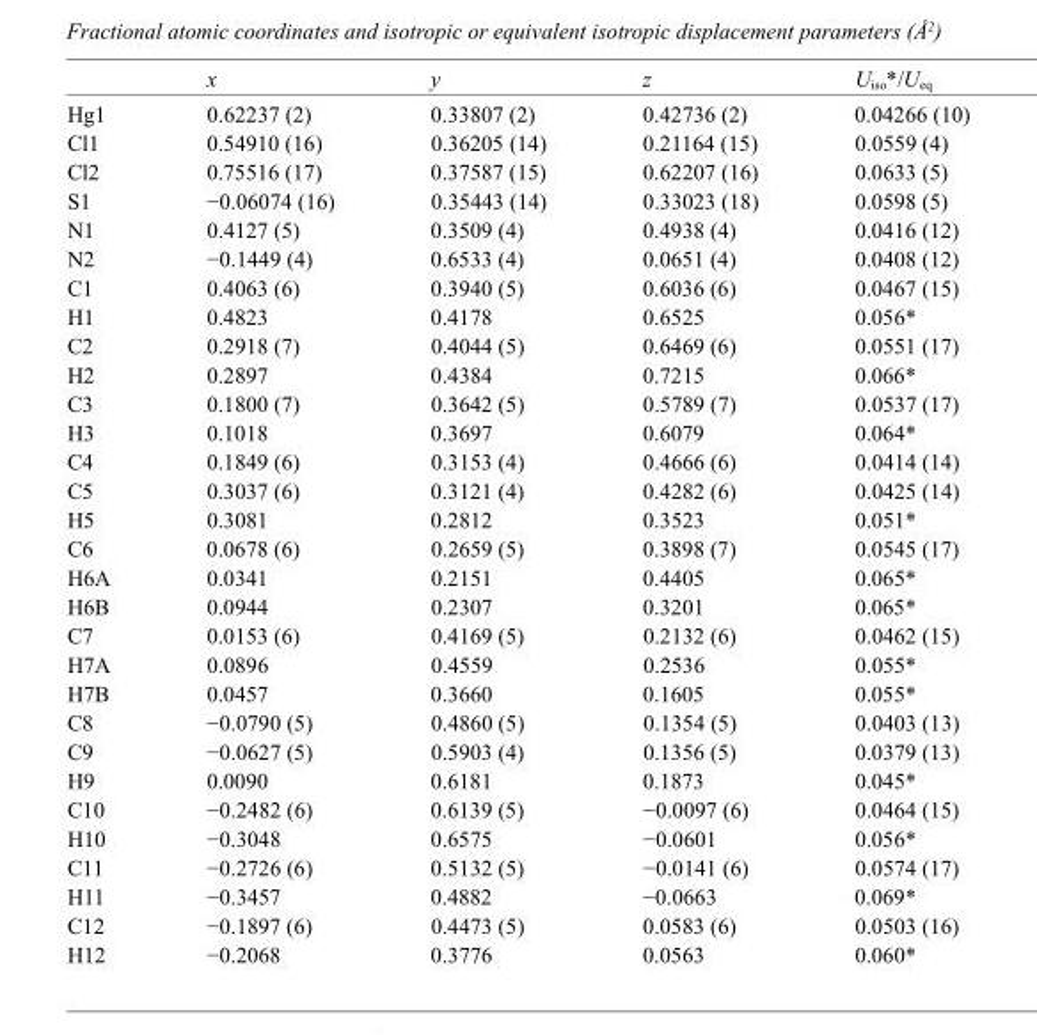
<table><thead><tr><td></td><td>x</td><td>y</td><td>z</td><td>U<sub>iso</sub>*/U<sub>eq</sub></td></tr></thead><tbody><tr><td>Hg1</td><td>0.62237 (2)</td><td>0.33807 (2)</td><td>0.42736 (2)</td><td>0.04266 (10)</td></tr><tr><td>Cl1</td><td>0.54910 (16)</td><td>0.36205 (14)</td><td>0.21164 (15)</td><td>0.0559 (4)</td></tr><tr><td>Cl2</td><td>0.75516 (17)</td><td>0.37587 (15)</td><td>0.62207 (16)</td><td>0.0633 (5)</td></tr><tr><td>S1</td><td>−0.06074 (16)</td><td>0.35443 (14)</td><td>0.33023 (18)</td><td>0.0598 (5)</td></tr><tr><td>N1</td><td>0.4127 (5)</td><td>0.3509 (4)</td><td>0.4938 (4)</td><td>0.0416 (12)</td></tr><tr><td>N2</td><td>−0.1449 (4)</td><td>0.6533 (4)</td><td>0.0651 (4)</td><td>0.0408 (12)</td></tr><tr><td>C1</td><td>0.4063 (6)</td><td>0.3940 (5)</td><td>0.6036 (6)</td><td>0.0467 (15)</td></tr><tr><td>H1</td><td>0.4823</td><td>0.4178</td><td>0.6525</td><td>0.056*</td></tr><tr><td>C2</td><td>0.2918 (7)</td><td>0.4044 (5)</td><td>0.6469 (6)</td><td>0.0551 (17)</td></tr><tr><td>H2</td><td>0.2897</td><td>0.4384</td><td>0.7215</td><td>0.066*</td></tr><tr><td>C3</td><td>0.1800 (7)</td><td>0.3642 (5)</td><td>0.5789 (7)</td><td>0.0537 (17)</td></tr><tr><td>H3</td><td>0.1018</td><td>0.3697</td><td>0.6079</td><td>0.064*</td></tr><tr><td>C4</td><td>0.1849 (6)</td><td>0.3153 (4)</td><td>0.4666 (6)</td><td>0.0414 (14)</td></tr><tr><td>C5</td><td>0.3037 (6)</td><td>0.3121 (4)</td><td>0.4282 (6)</td><td>0.0425 (14)</td></tr><tr><td>H5</td><td>0.3081</td><td>0.2812</td><td>0.3523</td><td>0.051*</td></tr><tr><td>C6</td><td>0.0678 (6)</td><td>0.2659 (5)</td><td>0.3898 (7)</td><td>0.0545 (17)</td></tr><tr><td>H6A</td><td>0.0341</td><td>0.2151</td><td>0.4405</td><td>0.065*</td></tr><tr><td>H6B</td><td>0.0944</td><td>0.2307</td><td>0.3201</td><td>0.065*</td></tr><tr><td>C7</td><td>0.0153 (6)</td><td>0.4169 (5)</td><td>0.2132 (6)</td><td>0.0462 (15)</td></tr><tr><td>H7A</td><td>0.0896</td><td>0.4559</td><td>0.2536</td><td>0.055*</td></tr><tr><td>H7B</td><td>0.0457</td><td>0.3660</td><td>0.1605</td><td>0.055*</td></tr><tr><td>C8</td><td>−0.0790 (5)</td><td>0.4860 (5)</td><td>0.1354 (5)</td><td>0.0403 (13)</td></tr><tr><td>C9</td><td>−0.0627 (5)</td><td>0.5903 (4)</td><td>0.1356 (5)</td><td>0.0379 (13)</td></tr><tr><td>H9</td><td>0.0090</td><td>0.6181</td><td>0.1873</td><td>0.045*</td></tr><tr><td>C10</td><td>−0.2482 (6)</td><td>0.6139 (5)</td><td>−0.0097 (6)</td><td>0.0464 (15)</td></tr><tr><td>H10</td><td>−0.3048</td><td>0.6575</td><td>−0.0601</td><td>0.056*</td></tr><tr><td>C11</td><td>−0.2726 (6)</td><td>0.5132 (5)</td><td>−0.0141 (6)</td><td>0.0574 (17)</td></tr><tr><td>H11</td><td>−0.3457</td><td>0.4882</td><td>−0.0663</td><td>0.069*</td></tr><tr><td>C12</td><td>−0.1897 (6)</td><td>0.4473 (5)</td><td>0.0583 (6)</td><td>0.0503 (16)</td></tr><tr><td>H12</td><td>−0.2068</td><td>0.3776</td><td>0.0563</td><td>0.060*</td></tr></tbody></table>